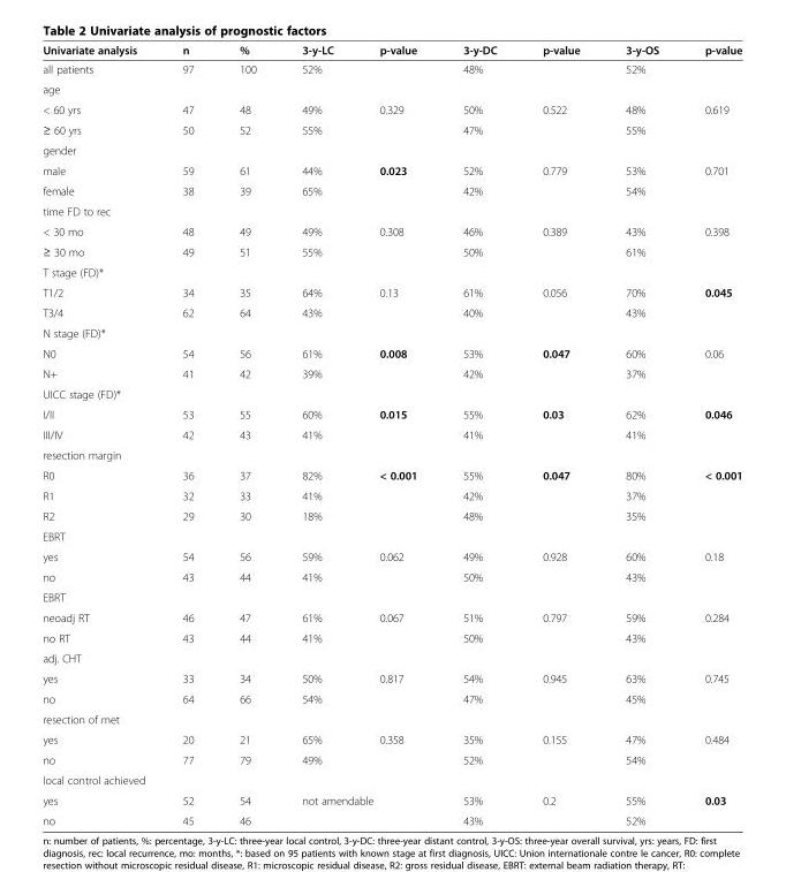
<table><thead><tr><td>Univariate analysis</td><td>n</td><td>%</td><td>3-y-LC</td><td>p-value</td><td>3-y-DC</td><td>p-value</td><td>3-y-OS</td><td>p-value</td></tr></thead><tbody><tr><td>all patients</td><td>97</td><td>100</td><td>52%</td><td></td><td>48%</td><td></td><td>52%</td><td></td></tr><tr><td colspan="9">age</td></tr><tr><td>&lt; 60 yrs</td><td>47</td><td>48</td><td>49%</td><td rowspan="2">0.329</td><td>50%</td><td rowspan="2">0.522</td><td>48%</td><td rowspan="2">0.619</td></tr><tr><td>≥ 60 yrs</td><td>50</td><td>52</td><td>55%</td><td>47%</td><td>55%</td></tr><tr><td colspan="9">gender</td></tr><tr><td>male</td><td>59</td><td>61</td><td>44%</td><td rowspan="2">0.023</td><td>52%</td><td rowspan="2">0.779</td><td>53%</td><td rowspan="2">0.701</td></tr><tr><td>female</td><td>38</td><td>39</td><td>65%</td><td>42%</td><td>54%</td></tr><tr><td colspan="9">time FD to rec</td></tr><tr><td>&lt; 30 mo</td><td>48</td><td>49</td><td>49%</td><td rowspan="2">0.308</td><td>46%</td><td rowspan="2">0.389</td><td>43%</td><td rowspan="2">0.398</td></tr><tr><td>≥ 30 mo</td><td>49</td><td>51</td><td>55%</td><td>50%</td><td>61%</td></tr><tr><td colspan="9">T stage (FD)*</td></tr><tr><td>T1/2</td><td>34</td><td>35</td><td>64%</td><td rowspan="2">0.13</td><td>61%</td><td rowspan="2">0.056</td><td>70%</td><td rowspan="2">0.045</td></tr><tr><td>T3/4</td><td>62</td><td>64</td><td>43%</td><td>40%</td><td>43%</td></tr><tr><td colspan="9">N stage (FD)*</td></tr><tr><td>N0</td><td>54</td><td>56</td><td>61%</td><td rowspan="2">0.008</td><td>53%</td><td rowspan="2">0.047</td><td>60%</td><td rowspan="2">0.06</td></tr><tr><td>N+</td><td>41</td><td>42</td><td>39%</td><td>42%</td><td>37%</td></tr><tr><td colspan="9">UICC stage (FD)*</td></tr><tr><td>I/II</td><td>53</td><td>55</td><td>60%</td><td rowspan="2">0.015</td><td>55%</td><td rowspan="2">0.03</td><td>62%</td><td rowspan="2">0.046</td></tr><tr><td>III/IV</td><td>42</td><td>43</td><td>41%</td><td>41%</td><td>41%</td></tr><tr><td colspan="9">resection margin</td></tr><tr><td>R0</td><td>36</td><td>37</td><td>82%</td><td rowspan="3">&lt; 0.001</td><td>55%</td><td rowspan="3">0.047</td><td>80%</td><td rowspan="3">&lt; 0.001</td></tr><tr><td>R1</td><td>32</td><td>33</td><td>41%</td><td>42%</td><td>37%</td></tr><tr><td>R2</td><td>29</td><td>30</td><td>18%</td><td>48%</td><td>35%</td></tr><tr><td colspan="9">EBRT</td></tr><tr><td>yes</td><td>54</td><td>56</td><td>59%</td><td rowspan="2">0.062</td><td>49%</td><td rowspan="2">0.928</td><td>60%</td><td rowspan="2">0.18</td></tr><tr><td>no</td><td>43</td><td>44</td><td>41%</td><td>50%</td><td>43%</td></tr><tr><td colspan="9">EBRT</td></tr><tr><td>neoadj RT</td><td>46</td><td>47</td><td>61%</td><td rowspan="2">0.067</td><td>51%</td><td rowspan="2">0.797</td><td>59%</td><td rowspan="2">0.284</td></tr><tr><td>no RT</td><td>43</td><td>44</td><td>41%</td><td>50%</td><td>43%</td></tr><tr><td colspan="9">adj. CHT</td></tr><tr><td>yes</td><td>33</td><td>34</td><td>50%</td><td rowspan="2">0.817</td><td>54%</td><td rowspan="2">0.945</td><td>63%</td><td rowspan="2">0.745</td></tr><tr><td>no</td><td>64</td><td>66</td><td>54%</td><td>47%</td><td>45%</td></tr><tr><td colspan="9">resection of met</td></tr><tr><td>yes</td><td>20</td><td>21</td><td>65%</td><td rowspan="2">0.358</td><td>35%</td><td rowspan="2">0.155</td><td>47%</td><td rowspan="2">0.484</td></tr><tr><td>no</td><td>77</td><td>79</td><td>49%</td><td>52%</td><td>54%</td></tr><tr><td colspan="9">local control achieved</td></tr><tr><td>yes</td><td>52</td><td>54</td><td colspan="2">not amendable</td><td>53%</td><td>0.2</td><td>55%</td><td>0.03</td></tr><tr><td>no</td><td>45</td><td>46</td><td></td><td></td><td>43%</td><td></td><td>52%</td><td></td></tr></tbody></table>